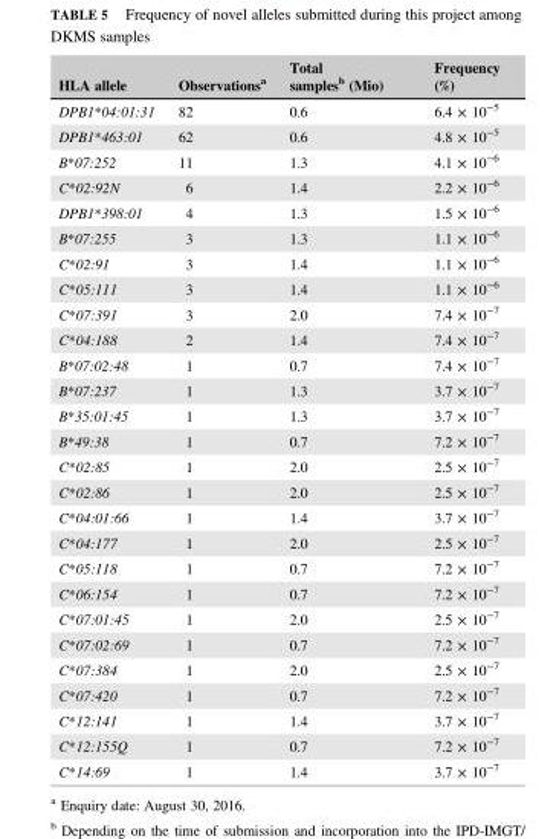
<table><thead><tr><td>HLA allele</td><td>Observations<sup>a</sup></td><td>Total samples<sup>b</sup> (Mio)</td><td>Frequency (%)</td></tr></thead><tbody><tr><td>DPB1*04:01:31</td><td>82</td><td>0.6</td><td>6.4 × 10<sup>−5</sup></td></tr><tr><td>DPB1*463:01</td><td>62</td><td>0.6</td><td>4.8 × 10<sup>−5</sup></td></tr><tr><td>B*07:252</td><td>11</td><td>1.3</td><td>4.1 × 10<sup>−6</sup></td></tr><tr><td>C*02:92N</td><td>6</td><td>1.4</td><td>2.2 × 10<sup>−6</sup></td></tr><tr><td>DPB1*398:01</td><td>4</td><td>1.3</td><td>1.5 × 10<sup>−6</sup></td></tr><tr><td>B*07:255</td><td>3</td><td>1.3</td><td>1.1 × 10<sup>−6</sup></td></tr><tr><td>C*02:91</td><td>3</td><td>1.4</td><td>1.1 × 10<sup>−6</sup></td></tr><tr><td>C*05:111</td><td>3</td><td>1.4</td><td>1.1 × 10<sup>−6</sup></td></tr><tr><td>C*07:391</td><td>3</td><td>2.0</td><td>7.4 × 10<sup>−7</sup></td></tr><tr><td>C*04:188</td><td>2</td><td>1.4</td><td>7.4 × 10<sup>−7</sup></td></tr><tr><td>B*07:02:48</td><td>1</td><td>0.7</td><td>7.4 × 10<sup>−7</sup></td></tr><tr><td>B*07:237</td><td>1</td><td>1.3</td><td>3.7 × 10<sup>−7</sup></td></tr><tr><td>B*35:01:45</td><td>1</td><td>1.3</td><td>3.7 × 10<sup>−7</sup></td></tr><tr><td>B*49:38</td><td>1</td><td>0.7</td><td>7.2 × 10<sup>−7</sup></td></tr><tr><td>C*02:85</td><td>1</td><td>2.0</td><td>2.5 × 10<sup>−7</sup></td></tr><tr><td>C*02:86</td><td>1</td><td>2.0</td><td>2.5 × 10<sup>−7</sup></td></tr><tr><td>C*04:01:66</td><td>1</td><td>1.4</td><td>3.7 × 10<sup>−7</sup></td></tr><tr><td>C*04:177</td><td>1</td><td>2.0</td><td>2.5 × 10<sup>−7</sup></td></tr><tr><td>C*05:118</td><td>1</td><td>0.7</td><td>7.2 × 10<sup>−7</sup></td></tr><tr><td>C*06:154</td><td>1</td><td>0.7</td><td>7.2 × 10<sup>−7</sup></td></tr><tr><td>C*07:01:45</td><td>1</td><td>2.0</td><td>2.5 × 10<sup>−7</sup></td></tr><tr><td>C*07:02:69</td><td>1</td><td>0.7</td><td>7.2 × 10<sup>−7</sup></td></tr><tr><td>C*07:384</td><td>1</td><td>2.0</td><td>2.5 × 10<sup>−7</sup></td></tr><tr><td>C*07:420</td><td>1</td><td>0.7</td><td>7.2 × 10<sup>−7</sup></td></tr><tr><td>C*12:141</td><td>1</td><td>1.4</td><td>3.7 × 10<sup>−7</sup></td></tr><tr><td>C*12:155Q</td><td>1</td><td>0.7</td><td>7.2 × 10<sup>−7</sup></td></tr><tr><td>C*14:69</td><td>1</td><td>1.4</td><td>3.7 × 10<sup>−7</sup></td></tr></tbody></table>